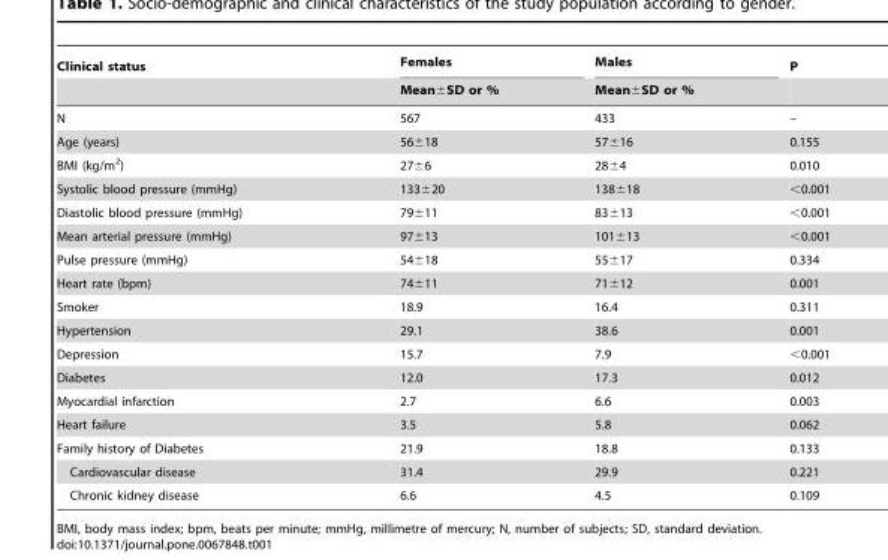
<table><thead><tr><td rowspan="2">Clinical status</td><td rowspan="2">Females Mean±SD or %</td><td rowspan="2">Males Mean±SD or %</td><td rowspan="2">P</td></tr><tr></tr></thead><tbody><tr><td>N</td><td>567</td><td>433</td><td>–</td></tr><tr><td>Age (years)</td><td>56±18</td><td>57±16</td><td>0.155</td></tr><tr><td>BMI (kg/m<sup>2</sup>)</td><td>27±6</td><td>28±4</td><td>0.010</td></tr><tr><td>Systolic blood pressure (mmHg)</td><td>133±20</td><td>138±18</td><td>&lt;0.001</td></tr><tr><td>Diastolic blood pressure (mmHg)</td><td>79±11</td><td>83±13</td><td>&lt;0.001</td></tr><tr><td>Mean arterial pressure (mmHg)</td><td>97±13</td><td>101±13</td><td>&lt;0.001</td></tr><tr><td>Pulse pressure (mmHg)</td><td>54±18</td><td>55±17</td><td>0.334</td></tr><tr><td>Heart rate (bpm)</td><td>74±11</td><td>71±12</td><td>0.001</td></tr><tr><td>Smoker</td><td>18.9</td><td>16.4</td><td>0.311</td></tr><tr><td>Hypertension</td><td>29.1</td><td>38.6</td><td>0.001</td></tr><tr><td>Depression</td><td>15.7</td><td>7.9</td><td>&lt;0.001</td></tr><tr><td>Diabetes</td><td>12.0</td><td>17.3</td><td>0.012</td></tr><tr><td>Myocardial infarction</td><td>2.7</td><td>6.6</td><td>0.003</td></tr><tr><td>Heart failure</td><td>3.5</td><td>5.8</td><td>0.062</td></tr><tr><td>Family history of Diabetes</td><td>21.9</td><td>18.8</td><td>0.133</td></tr><tr><td>Cardiovascular disease</td><td>31.4</td><td>29.9</td><td>0.221</td></tr><tr><td>Chronic kidney disease</td><td>6.6</td><td>4.5</td><td>0.109</td></tr></tbody></table>